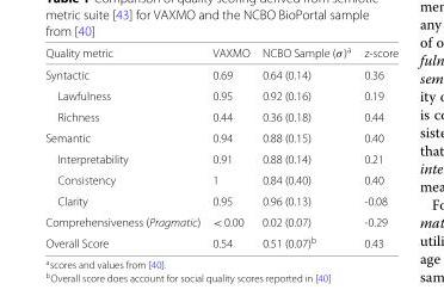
<table><thead><tr><td>Quality metric</td><td>VAXMO</td><td>NCBO Sample (σ)<sup>a</sup></td><td>z-score</td></tr></thead><tbody><tr><td>Syntactic</td><td>0.69</td><td>0.64 (0.14)</td><td>0.36</td></tr><tr><td>Lawfulness</td><td>0.95</td><td>0.92 (0.16)</td><td>0.19</td></tr><tr><td>Richness</td><td>0.44</td><td>0.36 (0.18)</td><td>0.44</td></tr><tr><td>Semantic</td><td>0.94</td><td>0.88 (0.15)</td><td>0.40</td></tr><tr><td>Interpretability</td><td>0.91</td><td>0.88 (0.14)</td><td>0.21</td></tr><tr><td>Consistency</td><td>1</td><td>0.84 (0.40)</td><td>0.40</td></tr><tr><td>Clarity</td><td>0.95</td><td>0.96 (0.13)</td><td>-0.08</td></tr><tr><td>Comprehensiveness (Pragmatic)</td><td>&lt; 0.00</td><td>0.02 (0.07)</td><td>-0.29</td></tr><tr><td>Overall Score</td><td>0.54</td><td>0.51 (0.07)<sup>b</sup></td><td>0.43</td></tr></tbody></table>